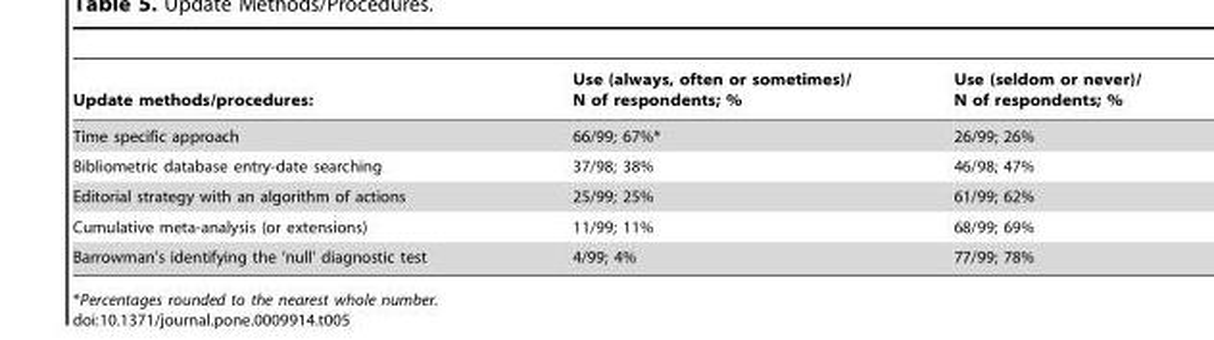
<table><thead><tr><td>Update methods/procedures:</td><td>Use (always, often or sometimes)/ N of respondents; %</td><td>Use (seldom or never)/ N of respondents; %</td></tr></thead><tbody><tr><td>Time specific approach</td><td>66/99; 67%*</td><td>26/99; 26%</td></tr><tr><td>Bibliometric database entry-date searching</td><td>37/98; 38%</td><td>46/98; 47%</td></tr><tr><td>Editorial strategy with an algorithm of actions</td><td>25/99; 25%</td><td>61/99; 62%</td></tr><tr><td>Cumulative meta-analysis (or extensions)</td><td>11/99; 11%</td><td>68/99; 69%</td></tr><tr><td>Barrowman’s identifying the ‘null’ diagnostic test</td><td>4/99; 4%</td><td>77/99; 78%</td></tr></tbody></table>